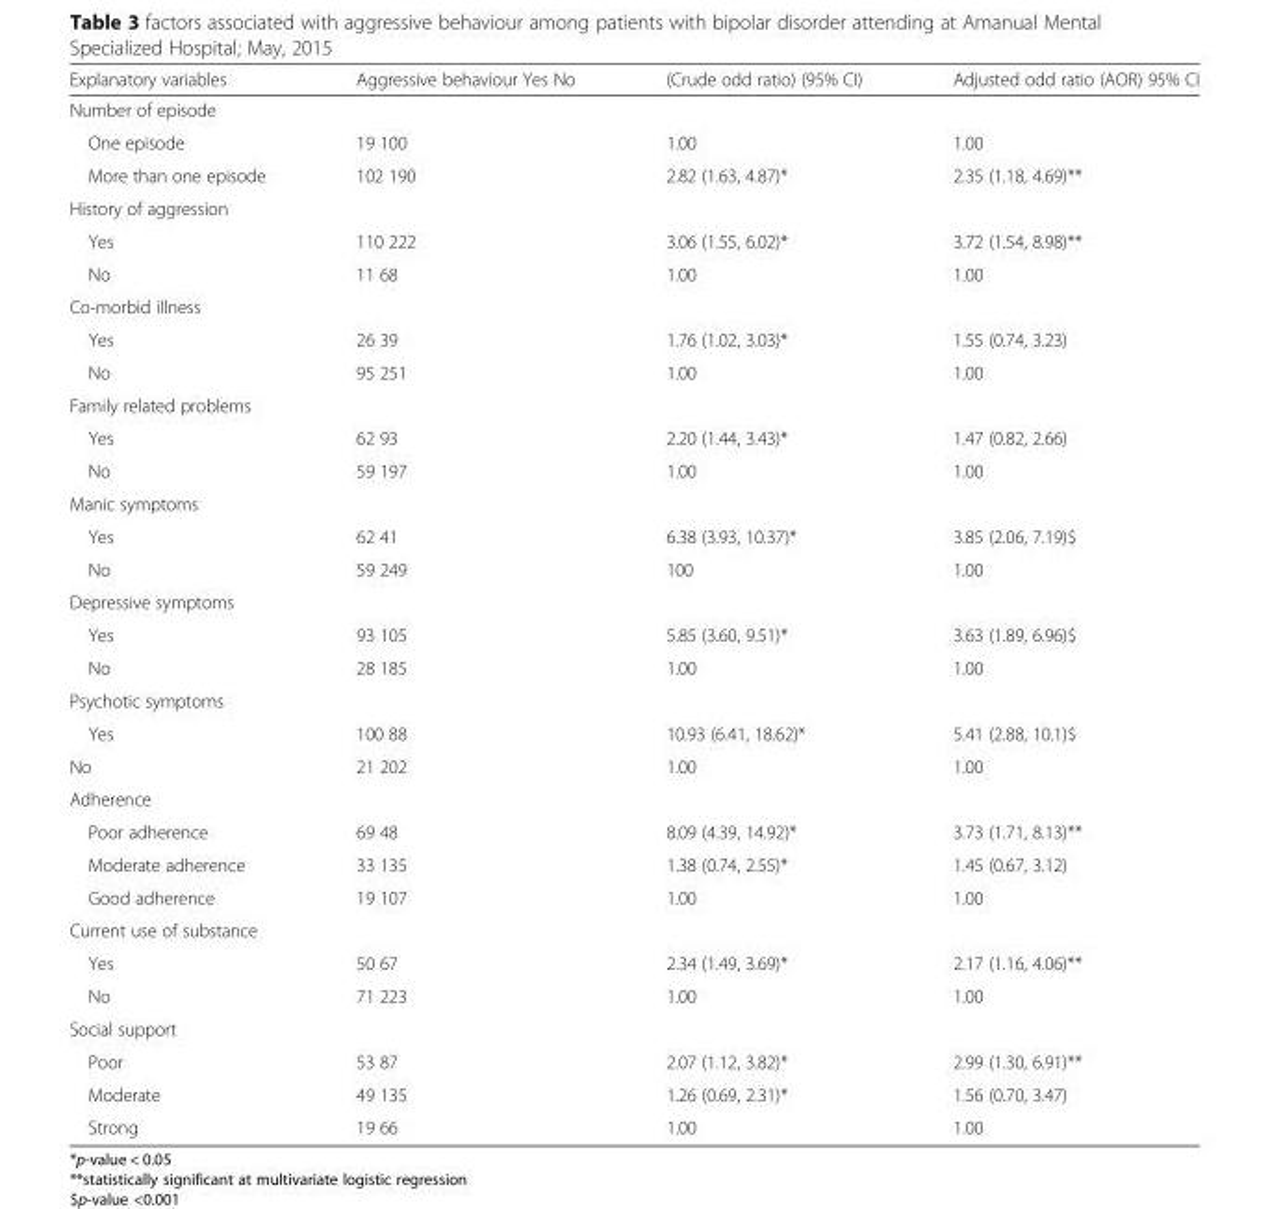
<table><thead><tr><td>Explanatory variables</td><td>Aggressive behaviour Yes No</td><td>(Crude odd ratio) (95% CI)</td><td>Adjusted odd ratio (AOR) 95% CI</td></tr></thead><tbody><tr><td colspan="4">Number of episode</td></tr><tr><td>One episode</td><td>19 100</td><td>1.00</td><td>1.00</td></tr><tr><td>More than one episode</td><td>102 190</td><td>2.82 (1.63, 4.87)*</td><td>2.35 (1.18, 4.69)**</td></tr><tr><td colspan="4">History of aggression</td></tr><tr><td>Yes</td><td>110 222</td><td>3.06 (1.55, 6.02)*</td><td>3.72 (1.54, 8.98)**</td></tr><tr><td>No</td><td>11 68</td><td>1.00</td><td>1.00</td></tr><tr><td colspan="4">Co-morbid illness</td></tr><tr><td>Yes</td><td>26 39</td><td>1.76 (1.02, 3.03)*</td><td>1.55 (0.74, 3.23)</td></tr><tr><td>No</td><td>95 251</td><td>1.00</td><td>1.00</td></tr><tr><td colspan="4">Family related problems</td></tr><tr><td>Yes</td><td>62 93</td><td>2.20 (1.44, 3.43)*</td><td>1.47 (0.82, 2.66)</td></tr><tr><td>No</td><td>59 197</td><td>1.00</td><td>1.00</td></tr><tr><td colspan="4">Manic symptoms</td></tr><tr><td>Yes</td><td>62 41</td><td>6.38 (3.93, 10.37)*</td><td>3.85 (2.06, 7.19)$</td></tr><tr><td>No</td><td>59 249</td><td>100</td><td>1.00</td></tr><tr><td colspan="4">Depressive symptoms</td></tr><tr><td>Yes</td><td>93 105</td><td>5.85 (3.60, 9.51)*</td><td>3.63 (1.89, 6.96)$</td></tr><tr><td>No</td><td>28 185</td><td>1.00</td><td>1.00</td></tr><tr><td colspan="4">Psychotic symptoms</td></tr><tr><td>Yes</td><td>100 88</td><td>10.93 (6.41, 18.62)*</td><td>5.41 (2.88, 10.1)$</td></tr><tr><td>No</td><td>21 202</td><td>1.00</td><td>1.00</td></tr><tr><td colspan="4">Adherence</td></tr><tr><td>Poor adherence</td><td>69 48</td><td>8.09 (4.39, 14.92)*</td><td>3.73 (1.71, 8.13)**</td></tr><tr><td>Moderate adherence</td><td>33 135</td><td>1.38 (0.74, 2.55)*</td><td>1.45 (0.67, 3.12)</td></tr><tr><td>Good adherence</td><td>19 107</td><td>1.00</td><td>1.00</td></tr><tr><td colspan="4">Current use of substance</td></tr><tr><td>Yes</td><td>50 67</td><td>2.34 (1.49, 3.69)*</td><td>2.17 (1.16, 4.06)**</td></tr><tr><td>No</td><td>71 223</td><td>1.00</td><td>1.00</td></tr><tr><td colspan="4">Social support</td></tr><tr><td>Poor</td><td>53 87</td><td>2.07 (1.12, 3.82)*</td><td>2.99 (1.30, 6.91)**</td></tr><tr><td>Moderate</td><td>49 135</td><td>1.26 (0.69, 2.31)*</td><td>1.56 (0.70, 3.47)</td></tr><tr><td>Strong</td><td>19 66</td><td>1.00</td><td>1.00</td></tr></tbody></table>